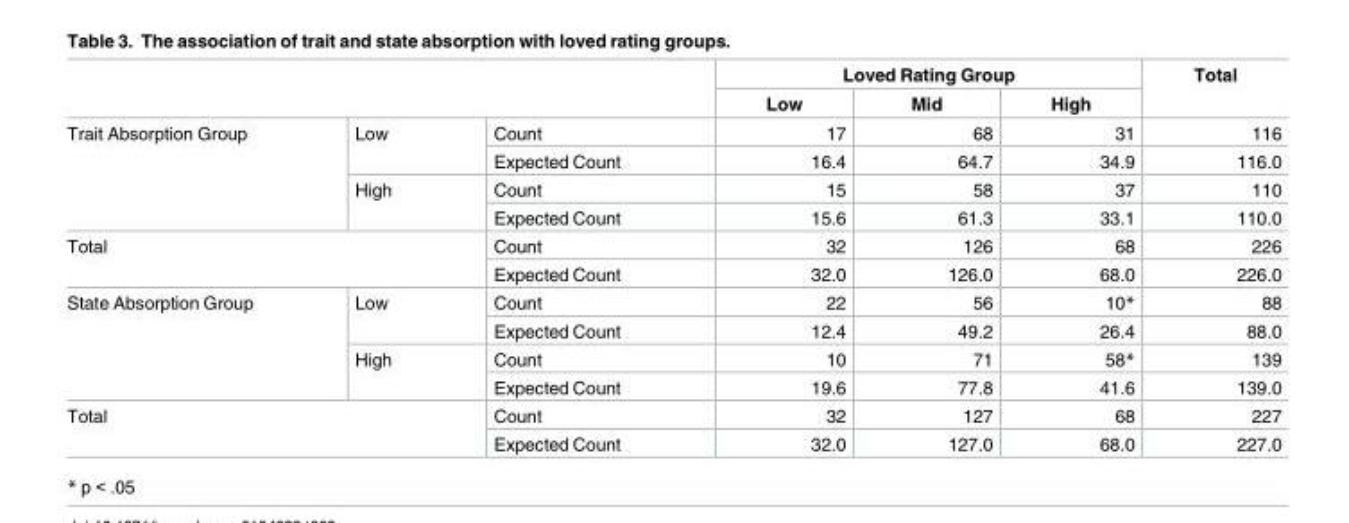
<table><thead><tr><td rowspan="2"></td><td rowspan="2"></td><td rowspan="2"></td><td colspan="3">Loved Rating Group</td><td rowspan="2">Total</td></tr><tr><td>Low</td><td>Mid</td><td>High</td></tr></thead><tbody><tr><td rowspan="4">Trait Absorption Group</td><td rowspan="2">Low</td><td>Count</td><td>17</td><td>68</td><td>31</td><td>116</td></tr><tr><td>Expected Count</td><td>16.4</td><td>64.7</td><td>34.9</td><td>116.0</td></tr><tr><td rowspan="2">High</td><td>Count</td><td>15</td><td>58</td><td>37</td><td>110</td></tr><tr><td>Expected Count</td><td>15.6</td><td>61.3</td><td>33.1</td><td>110.0</td></tr><tr><td rowspan="2" colspan="2">Total</td><td>Count</td><td>32</td><td>126</td><td>68</td><td>226</td></tr><tr><td>Expected Count</td><td>32.0</td><td>126.0</td><td>68.0</td><td>226.0</td></tr><tr><td rowspan="4">State Absorption Group</td><td rowspan="2">Low</td><td>Count</td><td>22</td><td>56</td><td>10*</td><td>88</td></tr><tr><td>Expected Count</td><td>12.4</td><td>49.2</td><td>26.4</td><td>88.0</td></tr><tr><td rowspan="2">High</td><td>Count</td><td>10</td><td>71</td><td>58*</td><td>139</td></tr><tr><td>Expected Count</td><td>19.6</td><td>77.8</td><td>41.6</td><td>139.0</td></tr><tr><td rowspan="2" colspan="2">Total</td><td>Count</td><td>32</td><td>127</td><td>68</td><td>227</td></tr><tr><td>Expected Count</td><td>32.0</td><td>127.0</td><td>68.0</td><td>227.0</td></tr></tbody></table>